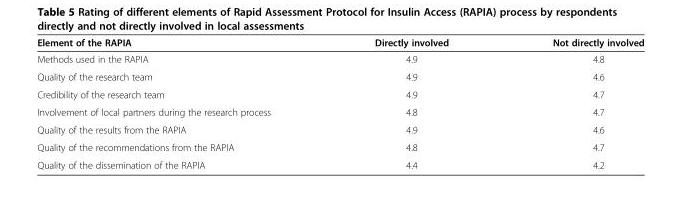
<table><thead><tr><td>Element of the RAPIA</td><td>Directly involved</td><td>Not directly involved</td></tr></thead><tbody><tr><td>Methods used in the RAPIA</td><td>4.9</td><td>4.8</td></tr><tr><td>Quality of the research team</td><td>4.9</td><td>4.6</td></tr><tr><td>Credibility of the research team</td><td>4.9</td><td>4.7</td></tr><tr><td>Involvement of local partners during the research process</td><td>4.8</td><td>4.7</td></tr><tr><td>Quality of the results from the RAPIA</td><td>4.9</td><td>4.6</td></tr><tr><td>Quality of the recommendations from the RAPIA</td><td>4.8</td><td>4.7</td></tr><tr><td>Quality of the dissemination of the RAPIA</td><td>4.4</td><td>4.2</td></tr></tbody></table>